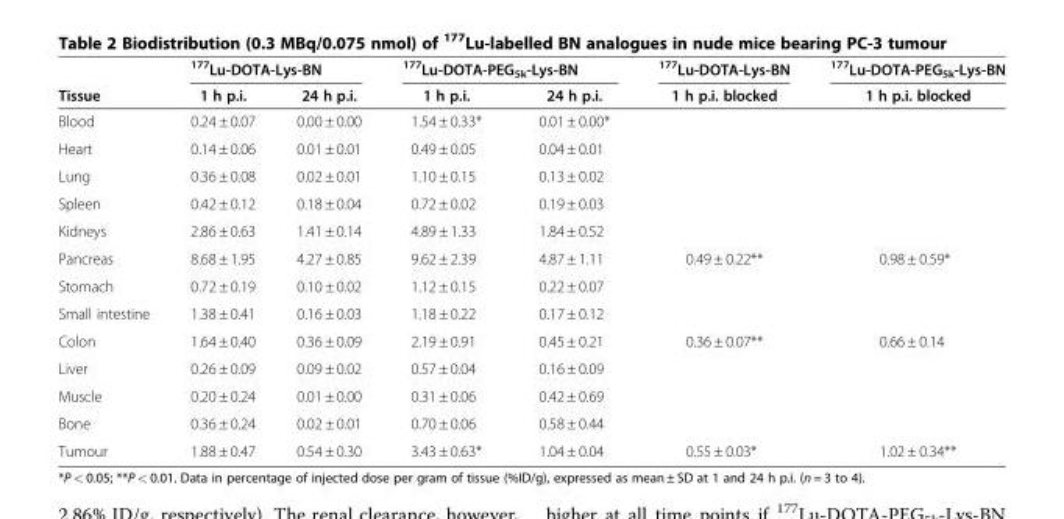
<table><thead><tr><td rowspan="2">Tissue</td><td colspan="2"><sup>177</sup>Lu-DOTA-Lys-BN</td><td colspan="2"><sup>177</sup>Lu-DOTA-PEG<sub>5k</sub>-Lys-BN</td><td rowspan="2"><sup>177</sup>Lu-DOTA-Lys-BN 1 h p.i. blocked</td><td rowspan="2"><sup>177</sup>Lu-DOTA-PEG<sub>5k</sub>-Lys-BN 1 h p.i. blocked</td></tr><tr><td>1 h p.i.</td><td>24 h p.i.</td><td>1 h p.i.</td><td>24 h p.i.</td></tr></thead><tbody><tr><td>Blood</td><td>0.24 ± 0.07</td><td>0.00 ± 0.00</td><td>1.54 ± 0.33*</td><td>0.01 ± 0.00*</td><td></td><td></td></tr><tr><td>Heart</td><td>0.14 ± 0.06</td><td>0.01 ± 0.01</td><td>0.49 ± 0.05</td><td>0.04 ± 0.01</td><td></td><td></td></tr><tr><td>Lung</td><td>0.36 ± 0.08</td><td>0.02 ± 0.01</td><td>1.10 ± 0.15</td><td>0.13 ± 0.02</td><td></td><td></td></tr><tr><td>Spleen</td><td>0.42 ± 0.12</td><td>0.18 ± 0.04</td><td>0.72 ± 0.02</td><td>0.19 ± 0.03</td><td></td><td></td></tr><tr><td>Kidneys</td><td>2.86 ± 0.63</td><td>1.41 ± 0.14</td><td>4.89 ± 1.33</td><td>1.84 ± 0.52</td><td></td><td></td></tr><tr><td>Pancreas</td><td>8.68 ± 1.95</td><td>4.27 ± 0.85</td><td>9.62 ± 2.39</td><td>4.87 ± 1.11</td><td>0.49 ± 0.22**</td><td>0.98 ± 0.59*</td></tr><tr><td>Stomach</td><td>0.72 ± 0.19</td><td>0.10 ± 0.02</td><td>1.12 ± 0.15</td><td>0.22 ± 0.07</td><td></td><td></td></tr><tr><td>Small intestine</td><td>1.38 ± 0.41</td><td>0.16 ± 0.03</td><td>1.18 ± 0.22</td><td>0.17 ± 0.12</td><td></td><td></td></tr><tr><td>Colon</td><td>1.64 ± 0.40</td><td>0.36 ± 0.09</td><td>2.19 ± 0.91</td><td>0.45 ± 0.21</td><td>0.36 ± 0.07**</td><td>0.66 ± 0.14</td></tr><tr><td>Liver</td><td>0.26 ± 0.09</td><td>0.09 ± 0.02</td><td>0.57 ± 0.04</td><td>0.16 ± 0.09</td><td></td><td></td></tr><tr><td>Muscle</td><td>0.20 ± 0.24</td><td>0.01 ± 0.00</td><td>0.31 ± 0.06</td><td>0.42 ± 0.69</td><td></td><td></td></tr><tr><td>Bone</td><td>0.36 ± 0.24</td><td>0.02 ± 0.01</td><td>0.70 ± 0.06</td><td>0.58 ± 0.44</td><td></td><td></td></tr><tr><td>Tumour</td><td>1.88 ± 0.47</td><td>0.54 ± 0.30</td><td>3.43 ± 0.63*</td><td>1.04 ± 0.04</td><td>0.55 ± 0.03*</td><td>1.02 ± 0.34**</td></tr></tbody></table>